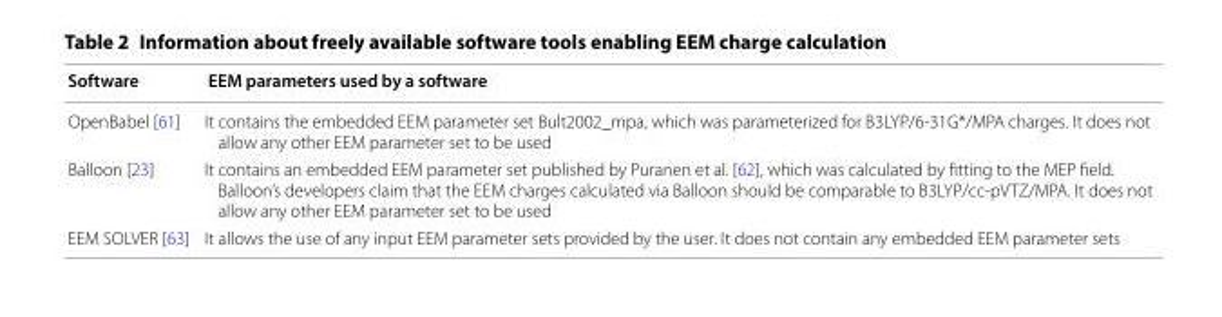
<table><thead><tr><td>Software</td><td>EEM parameters used by a software</td></tr></thead><tbody><tr><td>OpenBabel [61]</td><td>It contains the embedded EEM parameter set Bult2002_mpa, which was parameterized for B3LYP/6-31G*/MPA charges. It does not allow any other EEM parameter set to be used</td></tr><tr><td>Balloon [23]</td><td>It contains an embedded EEM parameter set published by Puranen et al. [62], which was calculated by fitting to the MEP field. Balloon’s developers claim that the EEM charges calculated via Balloon should be comparable to B3LYP/cc-pVTZ/MPA. It does not allow any other EEM parameter set to be used</td></tr><tr><td>EEM SOLVER [63]</td><td>It allows the use of any input EEM parameter sets provided by the user. It does not contain any embedded EEM parameter sets</td></tr></tbody></table>